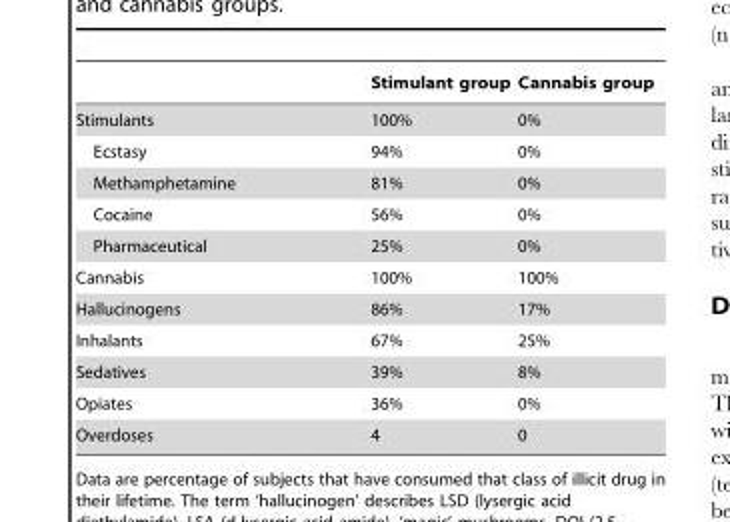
<table><thead><tr><td></td><td>Stimulant group</td><td>Cannabis group</td></tr></thead><tbody><tr><td>Stimulants</td><td>100%</td><td>0%</td></tr><tr><td>Ecstasy</td><td>94%</td><td>0%</td></tr><tr><td>Methamphetamine</td><td>81%</td><td>0%</td></tr><tr><td>Cocaine</td><td>56%</td><td>0%</td></tr><tr><td>Pharmaceutical</td><td>25%</td><td>0%</td></tr><tr><td>Cannabis</td><td>100%</td><td>100%</td></tr><tr><td>Hallucinogens</td><td>86%</td><td>17%</td></tr><tr><td>Inhalants</td><td>67%</td><td>25%</td></tr><tr><td>Sedatives</td><td>39%</td><td>8%</td></tr><tr><td>Opiates</td><td>36%</td><td>0%</td></tr><tr><td>Overdoses</td><td>4</td><td>0</td></tr></tbody></table>